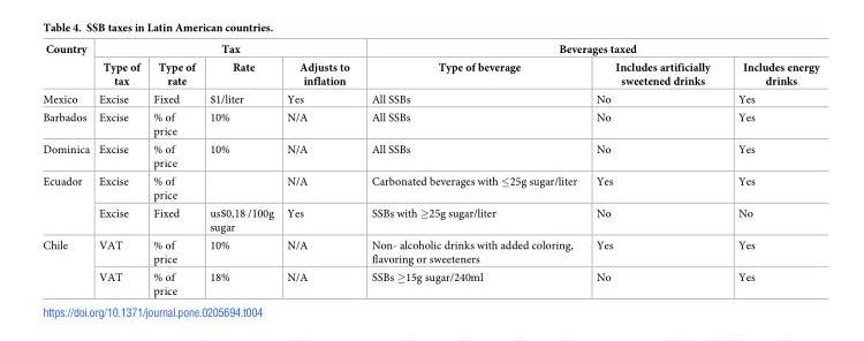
<table><thead><tr><td rowspan="2">Country</td><td colspan="4">Tax</td><td colspan="3">Beverages taxed</td></tr><tr><td>Type of tax</td><td>Type of rate</td><td>Rate</td><td>Adjusts to inflation</td><td>Type of beverage</td><td>Includes artificially sweetened drinks</td><td>Includes energy drinks</td></tr></thead><tbody><tr><td>Mexico</td><td>Excise</td><td>Fixed</td><td>$1/liter</td><td>Yes</td><td>All SSBs</td><td>No</td><td>Yes</td></tr><tr><td>Barbados</td><td>Excise</td><td>% of price</td><td>10%</td><td>N/A</td><td>All SSBs</td><td>No</td><td>Yes</td></tr><tr><td>Dominica</td><td>Excise</td><td>% of price</td><td>10%</td><td>N/A</td><td>All SSBs</td><td>No</td><td>Yes</td></tr><tr><td rowspan="2">Ecuador</td><td>Excise</td><td>% of price</td><td></td><td>N/A</td><td>Carbonated beverages with ≤25g sugar/liter</td><td>Yes</td><td>Yes</td></tr><tr><td>Excise</td><td>Fixed</td><td>us$0,18 /100g sugar</td><td>Yes</td><td>SSBs with ≥25g sugar/liter</td><td>No</td><td>No</td></tr><tr><td rowspan="2">Chile</td><td>VAT</td><td>% of price</td><td>10%</td><td>N/A</td><td>Non- alcoholic drinks with added coloring, flavoring or sweeteners</td><td>Yes</td><td>Yes</td></tr><tr><td>VAT</td><td>% of price</td><td>18%</td><td>N/A</td><td>SSBs ≥15g sugar/240ml</td><td>No</td><td>Yes</td></tr></tbody></table>